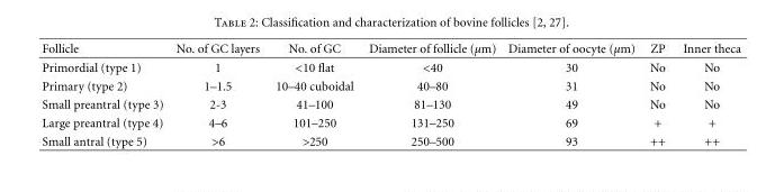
<table><thead><tr><td>Follicle</td><td>No. of GC layers</td><td>No. of GC</td><td>Diameter of follicle (μm)</td><td>Diameter of oocyte (μm)</td><td>ZP</td><td>Inner theca</td></tr></thead><tbody><tr><td>Primordial (type 1)</td><td>1</td><td>&lt;10 flat</td><td>&lt;40</td><td>30</td><td>No</td><td>No</td></tr><tr><td>Primary (type 2)</td><td>1–1.5</td><td>10–40 cuboidal</td><td>40–80</td><td>31</td><td>No</td><td>No</td></tr><tr><td>Small preantral (type 3)</td><td>2-3</td><td>41–100</td><td>81–130</td><td>49</td><td>No</td><td>No</td></tr><tr><td>Large preantral (type 4)</td><td>4–6</td><td>101–250</td><td>131–250</td><td>69</td><td>+</td><td>+</td></tr><tr><td>Small antral (type 5)</td><td>&gt;6</td><td>&gt;250</td><td>250–500</td><td>93</td><td>++</td><td>++</td></tr></tbody></table>